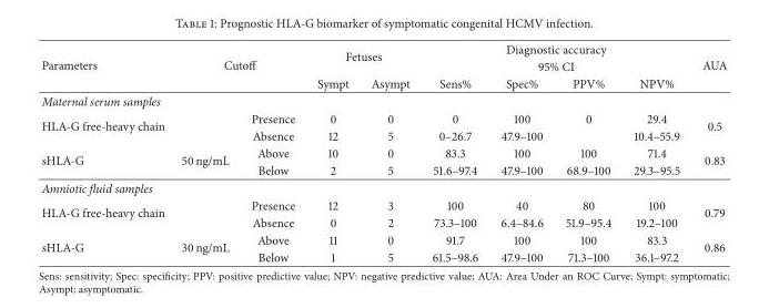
<table><thead><tr><td rowspan="4">Parameters Maternal serum samples</td><td rowspan="3" colspan="2">Cutoff</td><td rowspan="2" colspan="2">Fetuses</td><td rowspan="2" colspan="4">Diagnostic accuracy 95% CI</td><td rowspan="4">AUA</td></tr><tr></tr><tr><td rowspan="2">Sympt</td><td rowspan="2">Asympt</td><td rowspan="2">Sens%</td><td rowspan="2">Spec%</td><td rowspan="2">PPV%</td><td rowspan="2">NPV%</td></tr><tr><td></td><td></td></tr></thead><tbody><tr><td rowspan="2">HLA-G free-heavy chain</td><td></td><td>Presence</td><td>0</td><td>0</td><td>0</td><td>100</td><td>0</td><td>29.4</td><td rowspan="2">0.5</td></tr><tr><td></td><td>Absence</td><td>12</td><td>5</td><td>0–26.7</td><td>47.9–100</td><td></td><td>10.4–55.9</td></tr><tr><td rowspan="2">sHLA-G</td><td rowspan="2">50 ng/mL</td><td>Above</td><td>10</td><td>0</td><td>83.3</td><td>100</td><td>100</td><td>71.4</td><td rowspan="2">0.83</td></tr><tr><td>Below</td><td>2</td><td>5</td><td>51.6–97.4</td><td>47.9–100</td><td>68.9–100</td><td>29.3–95.5</td></tr><tr><td colspan="10">Amniotic fluid samples</td></tr><tr><td rowspan="2">HLA-G free-heavy chain</td><td></td><td>Presence</td><td>12</td><td>3</td><td>100</td><td>40</td><td>80</td><td>100</td><td rowspan="2">0.79</td></tr><tr><td></td><td>Absence</td><td>0</td><td>2</td><td>73.3–100</td><td>6.4–84.6</td><td>51.9–95.4</td><td>19.2–100</td></tr><tr><td rowspan="2">sHLA-G</td><td rowspan="2">30 ng/mL</td><td>Above</td><td>11</td><td>0</td><td>91.7</td><td>100</td><td>100</td><td>83.3</td><td rowspan="2">0.86</td></tr><tr><td>Below</td><td>1</td><td>5</td><td>61.5–98.6</td><td>47.9–100</td><td>71.3–100</td><td>36.1–97.2</td></tr></tbody></table>